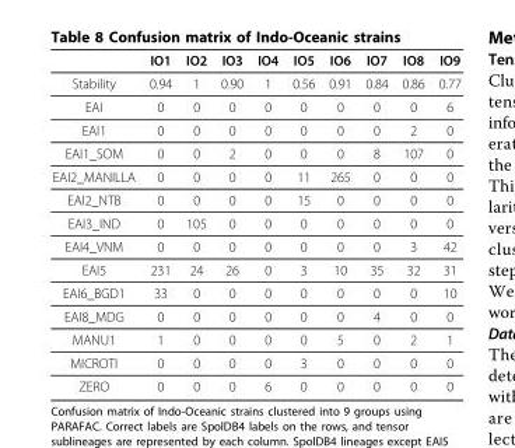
<table><thead><tr><td></td><td>IO1</td><td>IO2</td><td>IO3</td><td>IO4</td><td>IO5</td><td>IO6</td><td>IO7</td><td>IO8</td><td>IO9</td></tr></thead><tbody><tr><td>Stability</td><td>0.94</td><td>1</td><td>0.90</td><td>1</td><td>0.56</td><td>0.91</td><td>0.84</td><td>0.86</td><td>0.77</td></tr><tr><td>EAI</td><td>0</td><td>0</td><td>0</td><td>0</td><td>0</td><td>0</td><td>0</td><td>0</td><td>6</td></tr><tr><td>EAI1</td><td>0</td><td>0</td><td>0</td><td>0</td><td>0</td><td>0</td><td>0</td><td>2</td><td>0</td></tr><tr><td>EAI1_SOM</td><td>0</td><td>0</td><td>2</td><td>0</td><td>0</td><td>0</td><td>8</td><td>107</td><td>0</td></tr><tr><td>EAI2_MANILLA</td><td>0</td><td>0</td><td>0</td><td>0</td><td>11</td><td>265</td><td>0</td><td>0</td><td>0</td></tr><tr><td>EAI2_NTB</td><td>0</td><td>0</td><td>0</td><td>0</td><td>15</td><td>0</td><td>0</td><td>0</td><td>0</td></tr><tr><td>EAI3_IND</td><td>0</td><td>105</td><td>0</td><td>0</td><td>0</td><td>0</td><td>0</td><td>0</td><td>0</td></tr><tr><td>EAI4_VNM</td><td>0</td><td>0</td><td>0</td><td>0</td><td>0</td><td>0</td><td>0</td><td>3</td><td>42</td></tr><tr><td>EAI5</td><td>231</td><td>24</td><td>26</td><td>0</td><td>3</td><td>10</td><td>35</td><td>32</td><td>31</td></tr><tr><td>EAI6_BGD1</td><td>33</td><td>0</td><td>0</td><td>0</td><td>0</td><td>0</td><td>0</td><td>0</td><td>10</td></tr><tr><td>EAI8_MDG</td><td>0</td><td>0</td><td>0</td><td>0</td><td>0</td><td>0</td><td>4</td><td>0</td><td>0</td></tr><tr><td>MANU1</td><td>1</td><td>0</td><td>0</td><td>0</td><td>0</td><td>5</td><td>0</td><td>2</td><td>1</td></tr><tr><td>MICROTI</td><td>0</td><td>0</td><td>0</td><td>0</td><td>3</td><td>0</td><td>0</td><td>0</td><td>0</td></tr><tr><td>ZERO</td><td>0</td><td>0</td><td>0</td><td>6</td><td>0</td><td>0</td><td>0</td><td>0</td><td>0</td></tr></tbody></table>